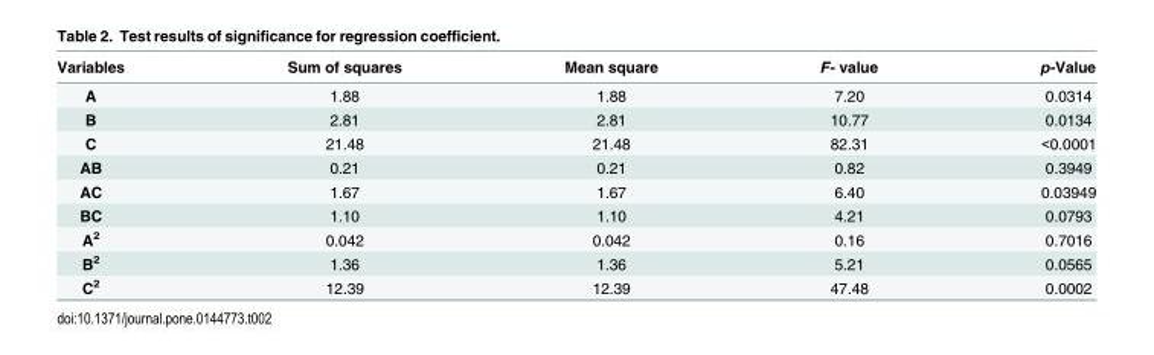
<table><thead><tr><td>Variables</td><td>Sum of squares</td><td>Mean square</td><td>F- value</td><td>p-Value</td></tr></thead><tbody><tr><td>A</td><td>1.88</td><td>1.88</td><td>7.20</td><td>0.0314</td></tr><tr><td>B</td><td>2.81</td><td>2.81</td><td>10.77</td><td>0.0134</td></tr><tr><td>C</td><td>21.48</td><td>21.48</td><td>82.31</td><td>&lt;0.0001</td></tr><tr><td>AB</td><td>0.21</td><td>0.21</td><td>0.82</td><td>0.3949</td></tr><tr><td>AC</td><td>1.67</td><td>1.67</td><td>6.40</td><td>0.03949</td></tr><tr><td>BC</td><td>1.10</td><td>1.10</td><td>4.21</td><td>0.0793</td></tr><tr><td>A<sup>2</sup></td><td>0.042</td><td>0.042</td><td>0.16</td><td>0.7016</td></tr><tr><td>B<sup>2</sup></td><td>1.36</td><td>1.36</td><td>5.21</td><td>0.0565</td></tr><tr><td>C<sup>2</sup></td><td>12.39</td><td>12.39</td><td>47.48</td><td>0.0002</td></tr></tbody></table>